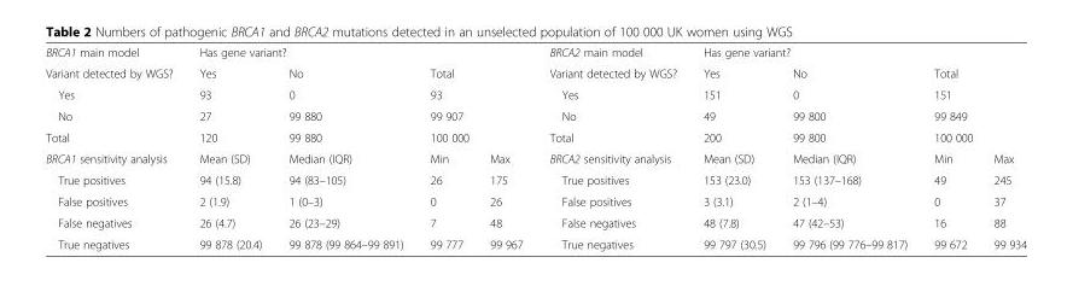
<table><tbody><tr><td>BRCA1 main model</td><td colspan="4">Has gene variant?</td><td>BRCA2 main model</td><td colspan="4">Has gene variant?</td></tr><tr><td>Variant detected by WGS?</td><td>Yes</td><td>No</td><td colspan="2">Total</td><td>Variant detected by WGS?</td><td>Yes</td><td>No</td><td colspan="2">Total</td></tr><tr><td>Yes</td><td>93</td><td>0</td><td colspan="2">93</td><td>Yes</td><td>151</td><td>0</td><td colspan="2">151</td></tr><tr><td>No</td><td>27</td><td>99 880</td><td colspan="2">99 907</td><td>No</td><td>49</td><td>99 800</td><td colspan="2">99 849</td></tr><tr><td>Total</td><td>120</td><td>99 880</td><td colspan="2">100 000</td><td>Total</td><td>200</td><td>99 800</td><td colspan="2">100 000</td></tr><tr><td>BRCA1 sensitivity analysis</td><td>Mean (SD)</td><td>Median (IQR)</td><td>Min</td><td>Max</td><td>BRCA2 sensitivity analysis</td><td>Mean (SD)</td><td>Median (IQR)</td><td>Min</td><td>Max</td></tr><tr><td>True positives</td><td>94 (15.8)</td><td>94 (83–105)</td><td>26</td><td>175</td><td>True positives</td><td>153 (23.0)</td><td>153 (137–168)</td><td>49</td><td>245</td></tr><tr><td>False positives</td><td>2 (1.9)</td><td>1 (0–3)</td><td>0</td><td>26</td><td>False positives</td><td>3 (3.1)</td><td>2 (1–4)</td><td>0</td><td>37</td></tr><tr><td>False negatives</td><td>26 (4.7)</td><td>26 (23–29)</td><td>7</td><td>48</td><td>False negatives</td><td>48 (7.8)</td><td>47 (42–53)</td><td>16</td><td>88</td></tr><tr><td>True negatives</td><td>99 878 (20.4)</td><td>99 878 (99 864–99 891)</td><td>99 777</td><td>99 967</td><td>True negatives</td><td>99 797 (30.5)</td><td>99 796 (99 776–99 817)</td><td>99 672</td><td>99 934</td></tr></tbody></table>